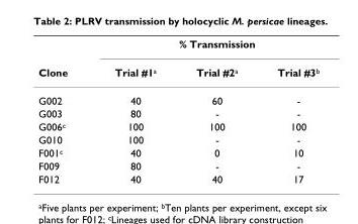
<table><thead><tr><td rowspan="2">Clone</td><td colspan="3">% Transmission</td></tr><tr><td>Trial #1<sup>a</sup></td><td>Trial #2<sup>a</sup></td><td>Trial #3<sup>b</sup></td></tr></thead><tbody><tr><td>G002</td><td>40</td><td>60</td><td>-</td></tr><tr><td>G003</td><td>80</td><td>-</td><td>-</td></tr><tr><td>G006<sup>c</sup></td><td>100</td><td>100</td><td>100</td></tr><tr><td>G010</td><td>100</td><td>-</td><td>-</td></tr><tr><td>F001<sup>c</sup></td><td>40</td><td>0</td><td>10</td></tr><tr><td>F009</td><td>80</td><td>-</td><td>-</td></tr><tr><td>F012</td><td>40</td><td>40</td><td>17</td></tr></tbody></table>